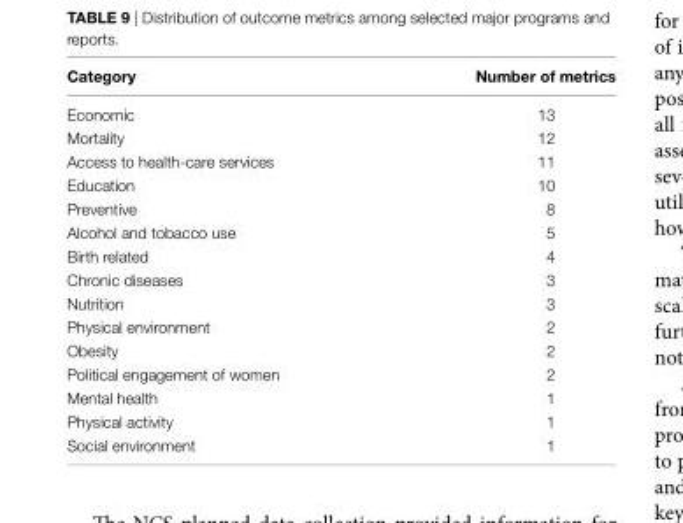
<table><thead><tr><td>Category</td><td>Number of metrics</td></tr></thead><tbody><tr><td>Economic</td><td>13</td></tr><tr><td>Mortality</td><td>12</td></tr><tr><td>Access to health-care services</td><td>11</td></tr><tr><td>Education</td><td>10</td></tr><tr><td>Preventive</td><td>8</td></tr><tr><td>Alcohol and tobacco use</td><td>5</td></tr><tr><td>Birth related</td><td>4</td></tr><tr><td>Chronic diseases</td><td>3</td></tr><tr><td>Nutrition</td><td>3</td></tr><tr><td>Physical environment</td><td>2</td></tr><tr><td>Obesity</td><td>2</td></tr><tr><td>Political engagement of women</td><td>2</td></tr><tr><td>Mental health</td><td>1</td></tr><tr><td>Physical activity</td><td>1</td></tr><tr><td>Social environment</td><td>1</td></tr></tbody></table>